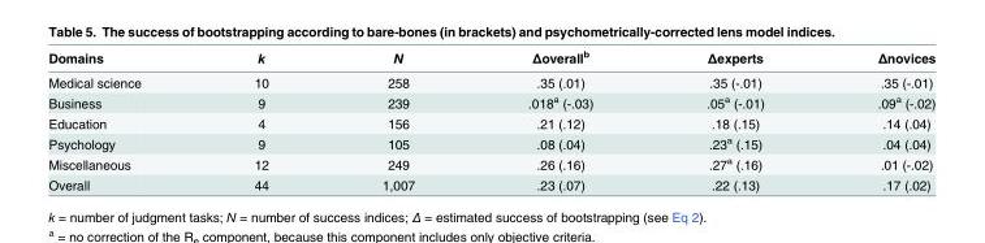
<table><thead><tr><td>Domains</td><td>k</td><td>N</td><td>Δoverall<sup>b</sup></td><td>Δexperts</td><td>Δnovices</td></tr></thead><tbody><tr><td>Medical science</td><td>10</td><td>258</td><td>.35 (.01)</td><td>.35 (-.01)</td><td>.35 (-.01)</td></tr><tr><td>Business</td><td>9</td><td>239</td><td>.018<sup>a</sup> (-.03)</td><td>.05<sup>a</sup> (-.01)</td><td>.09<sup>a</sup> (-.02)</td></tr><tr><td>Education</td><td>4</td><td>156</td><td>.21 (.12)</td><td>.18 (.15)</td><td>.14 (.04)</td></tr><tr><td>Psychology</td><td>9</td><td>105</td><td>.08 (.04)</td><td>.23<sup>a</sup> (.15)</td><td>.04 (.04)</td></tr><tr><td>Miscellaneous</td><td>12</td><td>249</td><td>.26 (.16)</td><td>.27<sup>a</sup> (.16)</td><td>.01 (-.02)</td></tr><tr><td>Overall</td><td>44</td><td>1,007</td><td>.23 (.07)</td><td>.22 (.13)</td><td>.17 (.02)</td></tr></tbody></table>